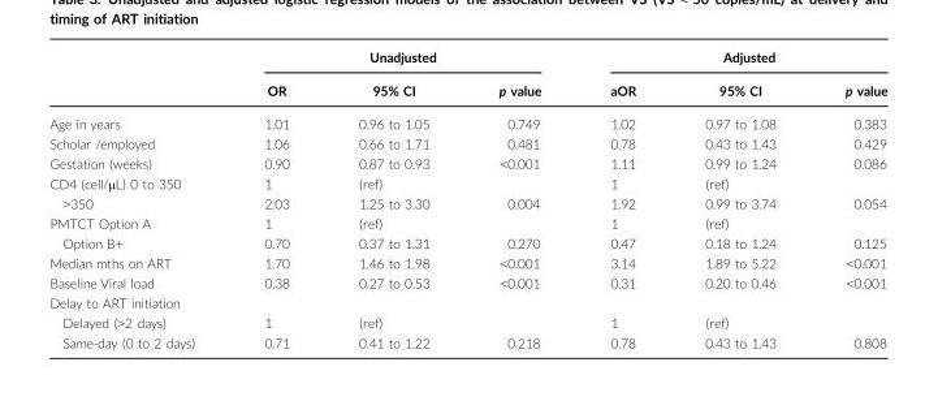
<table><thead><tr><td rowspan="2"></td><td colspan="3">Unadjusted</td><td colspan="3">Adjusted</td></tr><tr><td>OR</td><td>95% CI</td><td>p value</td><td>aOR</td><td>95% CI</td><td>p value</td></tr></thead><tbody><tr><td>Age in years</td><td>1.01</td><td>0.96 to 1.05</td><td>0.749</td><td>1.02</td><td>0.97 to 1.08</td><td>0.383</td></tr><tr><td>Scholar /employed</td><td>1.06</td><td>0.66 to 1.71</td><td>0.481</td><td>0.78</td><td>0.43 to 1.43</td><td>0.429</td></tr><tr><td>Gestation (weeks)</td><td>0.90</td><td>0.87 to 0.93</td><td>&lt;0.001</td><td>1.11</td><td>0.99 to 1.24</td><td>0.086</td></tr><tr><td>CD4 (cell/μL) 0 to 350</td><td>1</td><td>(ref)</td><td></td><td>1</td><td>(ref)</td><td></td></tr><tr><td>&gt;350</td><td>2.03</td><td>1.25 to 3.30</td><td>0.004</td><td>1.92</td><td>0.99 to 3.74</td><td>0.054</td></tr><tr><td>PMTCT Option A</td><td>1</td><td>(ref)</td><td></td><td>1</td><td>(ref)</td><td></td></tr><tr><td>Option B+</td><td>0.70</td><td>0.37 to 1.31</td><td>0.270</td><td>0.47</td><td>0.18 to 1.24</td><td>0.125</td></tr><tr><td>Median mths on ART</td><td>1.70</td><td>1.46 to 1.98</td><td>&lt;0.001</td><td>3.14</td><td>1.89 to 5.22</td><td>&lt;0.001</td></tr><tr><td>Baseline Viral load</td><td>0.38</td><td>0.27 to 0.53</td><td>&lt;0.001</td><td>0.31</td><td>0.20 to 0.46</td><td>&lt;0.001</td></tr><tr><td colspan="7">Delay to ART initiation</td></tr><tr><td>Delayed (&gt;2 days)</td><td>1</td><td>(ref)</td><td></td><td>1</td><td>(ref)</td><td></td></tr><tr><td>Same-day (0 to 2 days)</td><td>0.71</td><td>0.41 to 1.22</td><td>0.218</td><td>0.78</td><td>0.43 to 1.43</td><td>0.808</td></tr></tbody></table>